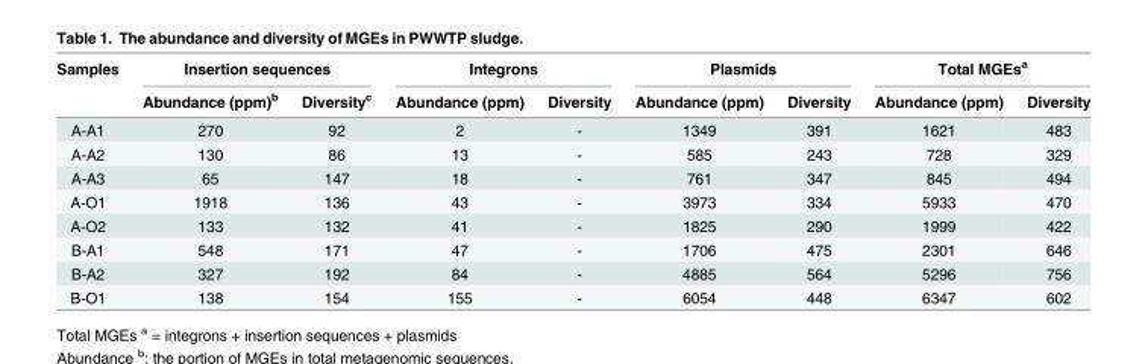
<table><thead><tr><td rowspan="2">Samples</td><td colspan="2">Insertion sequences</td><td colspan="2">Integrons</td><td colspan="2">Plasmids</td><td colspan="2">Total MGEs<sup>a</sup></td></tr><tr><td>Abundance (ppm)<sup>b</sup></td><td>Diversity<sup>c</sup></td><td>Abundance (ppm)</td><td>Diversity</td><td>Abundance (ppm)</td><td>Diversity</td><td>Abundance (ppm)</td><td>Diversity</td></tr></thead><tbody><tr><td>A-A1</td><td>270</td><td>92</td><td>2</td><td>-</td><td>1349</td><td>391</td><td>1621</td><td>483</td></tr><tr><td>A-A2</td><td>130</td><td>86</td><td>13</td><td>-</td><td>585</td><td>243</td><td>728</td><td>329</td></tr><tr><td>A-A3</td><td>65</td><td>147</td><td>18</td><td>-</td><td>761</td><td>347</td><td>845</td><td>494</td></tr><tr><td>A-O1</td><td>1918</td><td>136</td><td>43</td><td>-</td><td>3973</td><td>334</td><td>5933</td><td>470</td></tr><tr><td>A-O2</td><td>133</td><td>132</td><td>41</td><td>-</td><td>1825</td><td>290</td><td>1999</td><td>422</td></tr><tr><td>B-A1</td><td>548</td><td>171</td><td>47</td><td>-</td><td>1706</td><td>475</td><td>2301</td><td>646</td></tr><tr><td>B-A2</td><td>327</td><td>192</td><td>84</td><td>-</td><td>4885</td><td>564</td><td>5296</td><td>756</td></tr><tr><td>B-O1</td><td>138</td><td>154</td><td>155</td><td>-</td><td>6054</td><td>448</td><td>6347</td><td>602</td></tr></tbody></table>